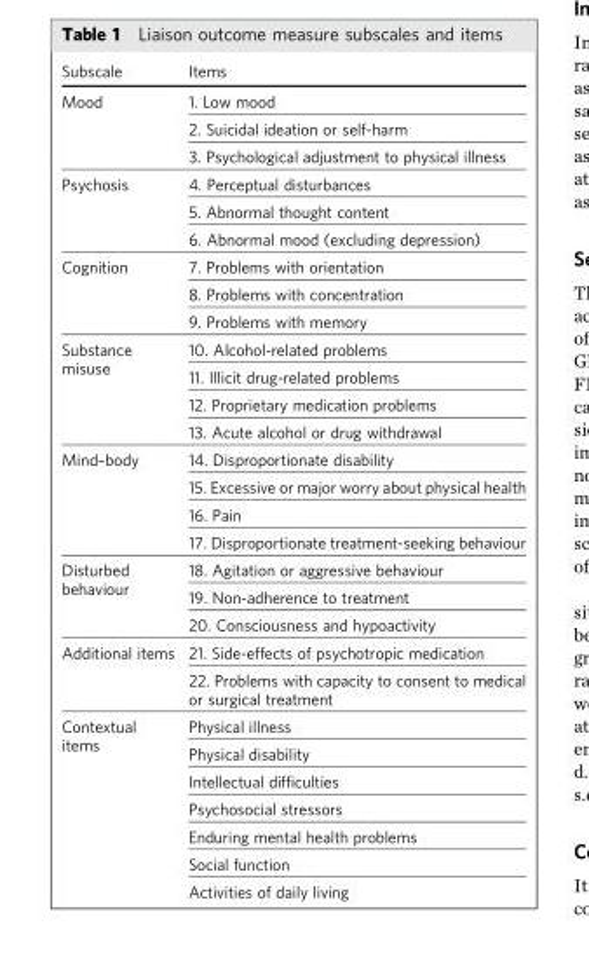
<table><thead><tr><td>Subscale</td><td>Items</td></tr></thead><tbody><tr><td rowspan="3">Mood</td><td>1. Low mood</td></tr><tr><td>2. Suicidal ideation or self-harm</td></tr><tr><td>3. Psychological adjustment to physical illness</td></tr><tr><td rowspan="3">Psychosis</td><td>4. Perceptual disturbances</td></tr><tr><td>5. Abnormal thought content</td></tr><tr><td>6. Abnormal mood (excluding depression)</td></tr><tr><td rowspan="3">Cognition</td><td>7. Problems with orientation</td></tr><tr><td>8. Problems with concentration</td></tr><tr><td>9. Problems with memory</td></tr><tr><td rowspan="4">Substance misuse</td><td>10. Alcohol-related problems</td></tr><tr><td>11. Illicit drug-related problems</td></tr><tr><td>12. Proprietary medication problems</td></tr><tr><td>13. Acute alcohol or drug withdrawal</td></tr><tr><td rowspan="4">Mind–body</td><td>14. Disproportionate disability</td></tr><tr><td>15. Excessive or major worry about physical health</td></tr><tr><td>16. Pain</td></tr><tr><td>17. Disproportionate treatment-seeking behaviour</td></tr><tr><td rowspan="3">Disturbed behaviour</td><td>18. Agitation or aggressive behaviour</td></tr><tr><td>19. Non-adherence to treatment</td></tr><tr><td>20. Consciousness and hypoactivity</td></tr><tr><td rowspan="2">Additional items</td><td>21. Side-effects of psychotropic medication</td></tr><tr><td>22. Problems with capacity to consent to medical or surgical treatment</td></tr><tr><td rowspan="7">Contextual items</td><td>Physical illness</td></tr><tr><td>Physical disability</td></tr><tr><td>Intellectual difficulties</td></tr><tr><td>Psychosocial stressors</td></tr><tr><td>Enduring mental health problems</td></tr><tr><td>Social function</td></tr><tr><td>Activities of daily living</td></tr></tbody></table>